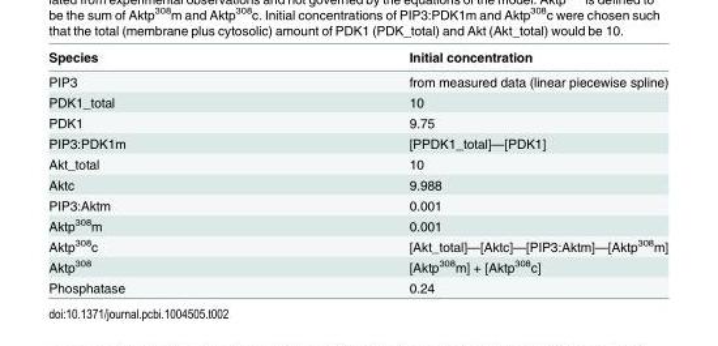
<table><thead><tr><td>Species</td><td>Initial concentration</td></tr></thead><tbody><tr><td>PIP3</td><td>from measured data (linear piecewise spline)</td></tr><tr><td>PDK1_total</td><td>10</td></tr><tr><td>PDK1</td><td>9.75</td></tr><tr><td>PIP3:PDK1m</td><td>[PPDK1_total]—[PDK1]</td></tr><tr><td>Akt_total</td><td>10</td></tr><tr><td>Aktc</td><td>9.988</td></tr><tr><td>PIP3:Aktm</td><td>0.001</td></tr><tr><td>Aktp<sup>308</sup>m</td><td>0.001</td></tr><tr><td>Aktp<sup>308</sup>c</td><td>[Akt_total]—[Aktc]—[PIP3:Aktm]—[Aktp<sup>308</sup>m]</td></tr><tr><td>Aktp<sup>308</sup></td><td>[Aktp<sup>308</sup>m] + [Aktp<sup>308</sup>c]</td></tr><tr><td>Phosphatase</td><td>0.24</td></tr></tbody></table>